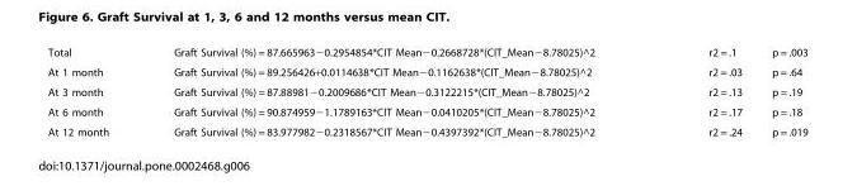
<table><tbody><tr><td>Total</td><td>Graft Survival (%) = 87.66596320.2954854*CIT Mean20.2668728*(CIT_Mean28.78025)^2</td><td>r2 = .1</td><td>p = .003</td></tr><tr><td>At 1 month</td><td>Graft Survival (%) = 89.256426+0.0114638*CIT Mean20.1162638*(CIT_Mean28.78025)^2</td><td>r2 = .03</td><td>p = .64</td></tr><tr><td>At 3 month</td><td>Graft Survival (%) = 87.8898120.2009686*CIT Mean20.3122215*(CIT_Mean28.78025)^2</td><td>r2 = .13</td><td>p = .19</td></tr><tr><td>At 6 month</td><td>Graft Survival (%) = 90.87495921.1789163*CIT Mean20.0410205*(CIT_Mean28.78025)^2</td><td>r2 = .17</td><td>p = .18</td></tr><tr><td>At 12 month</td><td>Graft Survival (%) = 83.97798220.2318567*CIT Mean20.4397392*(CIT_Mean28.78025)^2</td><td>r2 = .24</td><td>p = .019</td></tr></tbody></table>